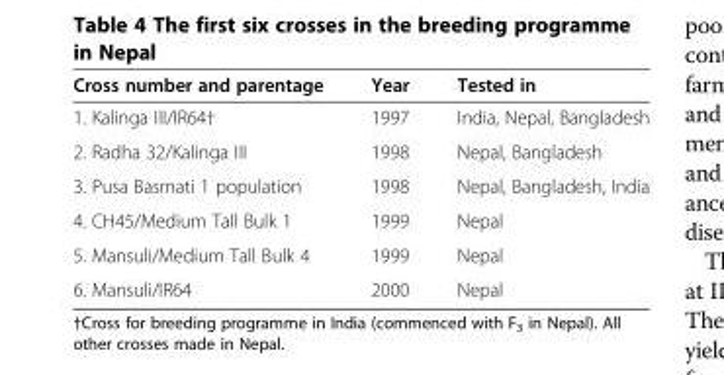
<table><thead><tr><td>Cross number and parentage</td><td>Year</td><td>Tested in</td></tr></thead><tbody><tr><td>1. Kalinga III/IR64†</td><td>1997</td><td>India, Nepal, Bangladesh</td></tr><tr><td>2. Radha 32/Kalinga III</td><td>1998</td><td>Nepal, Bangladesh</td></tr><tr><td>3. Pusa Basmati 1 population</td><td>1998</td><td>Nepal, Bangladesh, India</td></tr><tr><td>4. CH45/Medium Tall Bulk 1</td><td>1999</td><td>Nepal</td></tr><tr><td>5. Mansuli/Medium Tall Bulk 4</td><td>1999</td><td>Nepal</td></tr><tr><td>6. Mansuli/IR64</td><td>2000</td><td>Nepal</td></tr></tbody></table>